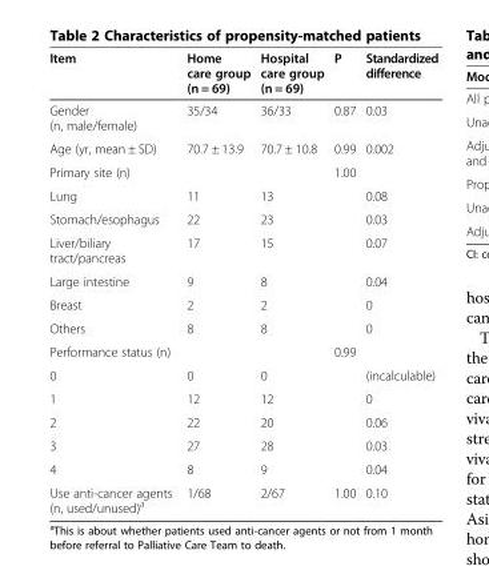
<table><thead><tr><td>Item</td><td>Home care group (n = 69)</td><td>Hospital care group (n = 69)</td><td>P</td><td>Standardized difference</td></tr></thead><tbody><tr><td>Gender (n, male/female)</td><td>35/34</td><td>36/33</td><td>0.87</td><td>0.03</td></tr><tr><td>Age (yr, mean ± SD)</td><td>70.7 ± 13.9</td><td>70.7 ± 10.8</td><td>0.99</td><td>0.002</td></tr><tr><td>Primary site (n)</td><td></td><td></td><td>1.00</td><td></td></tr><tr><td>Lung</td><td>11</td><td>13</td><td></td><td>0.08</td></tr><tr><td>Stomach/esophagus</td><td>22</td><td>23</td><td></td><td>0.03</td></tr><tr><td>Liver/biliary tract/pancreas</td><td>17</td><td>15</td><td></td><td>0.07</td></tr><tr><td>Large intestine</td><td>9</td><td>8</td><td></td><td>0.04</td></tr><tr><td>Breast</td><td>2</td><td>2</td><td></td><td>0</td></tr><tr><td>Others</td><td>8</td><td>8</td><td></td><td>0</td></tr><tr><td>Performance status (n)</td><td></td><td></td><td>0.99</td><td></td></tr><tr><td>0</td><td>0</td><td>0</td><td></td><td>(incalculable)</td></tr><tr><td>1</td><td>12</td><td>12</td><td></td><td>0</td></tr><tr><td>2</td><td>22</td><td>20</td><td></td><td>0.06</td></tr><tr><td>3</td><td>27</td><td>28</td><td></td><td>0.03</td></tr><tr><td>4</td><td>8</td><td>9</td><td></td><td>0.04</td></tr><tr><td>Use anti-cancer agents (n, used/unused)<sup>a</sup></td><td>1/68</td><td>2/67</td><td>1.00</td><td>0.10</td></tr></tbody></table>